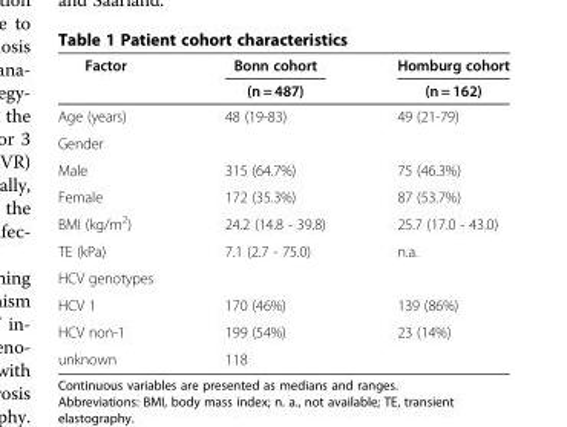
<table><thead><tr><td rowspan="2">Factor</td><td rowspan="2">Bonn cohort (n = 487)</td><td rowspan="2">Homburg cohort (n = 162)</td></tr><tr></tr></thead><tbody><tr><td>Age (years)</td><td>48 (19-83)</td><td>49 (21-79)</td></tr><tr><td colspan="3">Gender</td></tr><tr><td>Male</td><td>315 (64.7%)</td><td>75 (46.3%)</td></tr><tr><td>Female</td><td>172 (35.3%)</td><td>87 (53.7%)</td></tr><tr><td>BMI (kg/m<sup>2</sup>)</td><td>24.2 (14.8 - 39.8)</td><td>25.7 (17.0 - 43.0)</td></tr><tr><td>TE (kPa)</td><td>7.1 (2.7 - 75.0)</td><td>n.a.</td></tr><tr><td colspan="3">HCV genotypes</td></tr><tr><td>HCV 1</td><td>170 (46%)</td><td>139 (86%)</td></tr><tr><td>HCV non-1</td><td>199 (54%)</td><td>23 (14%)</td></tr><tr><td>unknown</td><td>118</td><td></td></tr></tbody></table>